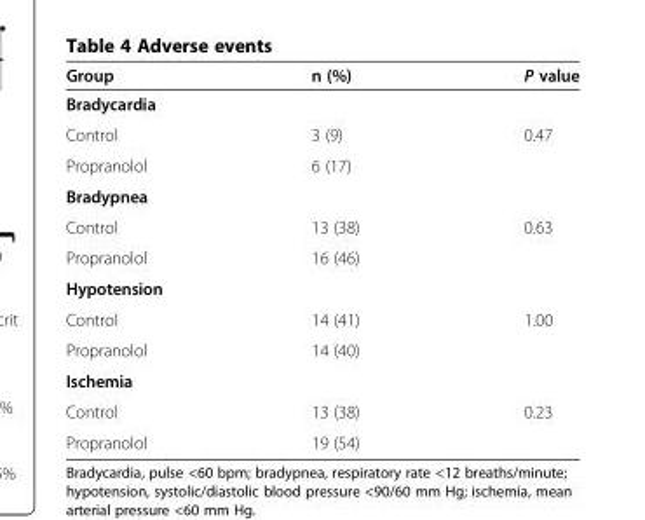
<table><thead><tr><td>Group</td><td>n (%)</td><td>P value</td></tr></thead><tbody><tr><td colspan="3">Bradycardia</td></tr><tr><td>Control</td><td>3 (9)</td><td>0.47</td></tr><tr><td>Propranolol</td><td>6 (17)</td><td></td></tr><tr><td colspan="3">Bradypnea</td></tr><tr><td>Control</td><td>13 (38)</td><td>0.63</td></tr><tr><td>Propranolol</td><td>16 (46)</td><td></td></tr><tr><td colspan="3">Hypotension</td></tr><tr><td>Control</td><td>14 (41)</td><td>1.00</td></tr><tr><td>Propranolol</td><td>14 (40)</td><td></td></tr><tr><td colspan="3">Ischemia</td></tr><tr><td>Control</td><td>13 (38)</td><td>0.23</td></tr><tr><td>Propranolol</td><td>19 (54)</td><td></td></tr></tbody></table>